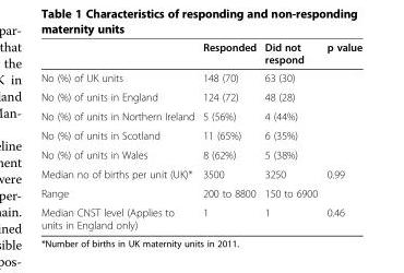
<table><thead><tr><td></td><td>Responded</td><td>Did not respond</td><td>p value</td></tr></thead><tbody><tr><td>No (%) of UK units</td><td>148 (70)</td><td>63 (30)</td><td></td></tr><tr><td>No (%) of units in England</td><td>124 (72)</td><td>48 (28)</td><td></td></tr><tr><td>No (%) of units in Northern Ireland</td><td>5 (56%)</td><td>4 (44%)</td><td></td></tr><tr><td>No (%) of units in Scotland</td><td>11 (65%)</td><td>6 (35%)</td><td></td></tr><tr><td>No (%) of units in Wales</td><td>8 (62%)</td><td>5 (38%)</td><td></td></tr><tr><td>Median no of births per unit (UK)*</td><td>3500</td><td>3250</td><td>0.99</td></tr><tr><td>Range</td><td>200 to 8800</td><td>150 to 6900</td><td></td></tr><tr><td>Median CNST level (Applies to units in England only)</td><td>1</td><td>1</td><td>0.46</td></tr></tbody></table>